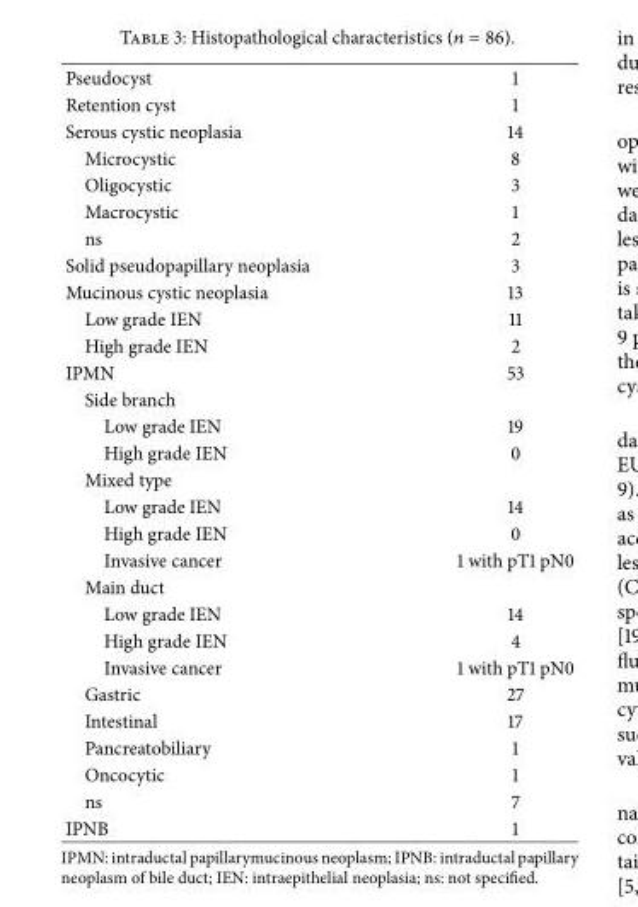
<table><tbody><tr><td>Pseudocyst</td><td>1</td></tr><tr><td>Retention cyst</td><td>1</td></tr><tr><td>Serous cystic neoplasia</td><td>14</td></tr><tr><td>Microcystic</td><td>8</td></tr><tr><td>Oligocystic</td><td>3</td></tr><tr><td>Macrocystic</td><td>1</td></tr><tr><td>ns</td><td>2</td></tr><tr><td>Solid pseudopapillary neoplasia</td><td>3</td></tr><tr><td>Mucinous cystic neoplasia</td><td>13</td></tr><tr><td>Low grade IEN</td><td>11</td></tr><tr><td>High grade IEN</td><td>2</td></tr><tr><td>IPMN</td><td>53</td></tr><tr><td colspan="2">Side branch</td></tr><tr><td>Low grade IEN</td><td>19</td></tr><tr><td>High grade IEN</td><td>0</td></tr><tr><td colspan="2">Mixed type</td></tr><tr><td>Low grade IEN</td><td>14</td></tr><tr><td>High grade IEN</td><td>0</td></tr><tr><td>Invasive cancer</td><td>1 with pT1 pN0</td></tr><tr><td colspan="2">Main duct</td></tr><tr><td>Low grade IEN</td><td>14</td></tr><tr><td>High grade IEN</td><td>4</td></tr><tr><td>Invasive cancer</td><td>1 with pT1 pN0</td></tr><tr><td>Gastric</td><td>27</td></tr><tr><td>Intestinal</td><td>17</td></tr><tr><td>Pancreatobiliary</td><td>1</td></tr><tr><td>Oncocytic</td><td>1</td></tr><tr><td>ns</td><td>7</td></tr><tr><td>IPNB</td><td>1</td></tr></tbody></table>